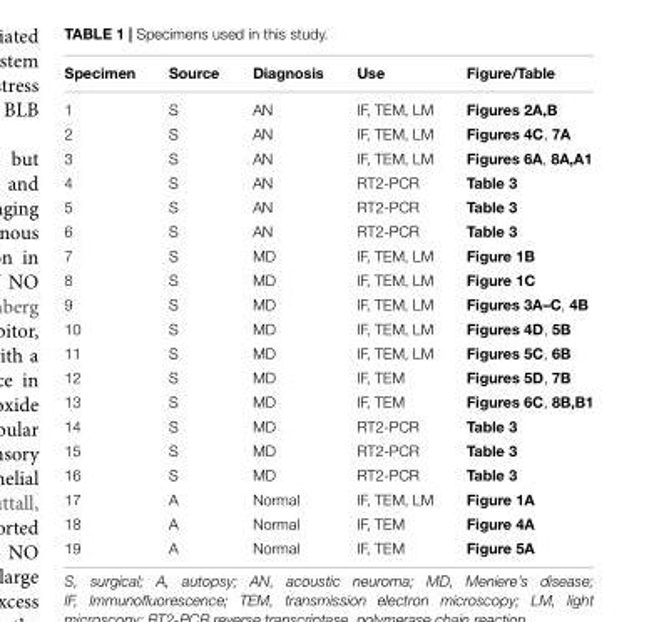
<table><thead><tr><td>Specimen</td><td>Source</td><td>Diagnosis</td><td>Use</td><td>Figure/Table</td></tr></thead><tbody><tr><td>1</td><td>S</td><td>AN</td><td>IF, TEM, LM</td><td>Figures 2A,B</td></tr><tr><td>2</td><td>S</td><td>AN</td><td>IF, TEM, LM</td><td>Figures 4C, 7A</td></tr><tr><td>3</td><td>S</td><td>AN</td><td>IF, TEM, LM</td><td>Figures 6A, 8A,A1</td></tr><tr><td>4</td><td>S</td><td>AN</td><td>RT2-PCR</td><td>Table 3</td></tr><tr><td>5</td><td>S</td><td>AN</td><td>RT2-PCR</td><td>Table 3</td></tr><tr><td>6</td><td>S</td><td>AN</td><td>RT2-PCR</td><td>Table 3</td></tr><tr><td>7</td><td>S</td><td>MD</td><td>IF, TEM, LM</td><td>Figure 1B</td></tr><tr><td>8</td><td>S</td><td>MD</td><td>IF, TEM, LM</td><td>Figure 1C</td></tr><tr><td>9</td><td>S</td><td>MD</td><td>IF, TEM, LM</td><td>Figures 3A–C, 4B</td></tr><tr><td>10</td><td>S</td><td>MD</td><td>IF, TEM, LM</td><td>Figures 4D, 5B</td></tr><tr><td>11</td><td>S</td><td>MD</td><td>IF, TEM, LM</td><td>Figures 5C, 6B</td></tr><tr><td>12</td><td>S</td><td>MD</td><td>IF, TEM</td><td>Figures 5D, 7B</td></tr><tr><td>13</td><td>S</td><td>MD</td><td>IF, TEM</td><td>Figures 6C, 8B,B1</td></tr><tr><td>14</td><td>S</td><td>MD</td><td>RT2-PCR</td><td>Table 3</td></tr><tr><td>15</td><td>S</td><td>MD</td><td>RT2-PCR</td><td>Table 3</td></tr><tr><td>16</td><td>S</td><td>MD</td><td>RT2-PCR</td><td>Table 3</td></tr><tr><td>17</td><td>A</td><td>Normal</td><td>IF, TEM, LM</td><td>Figure 1A</td></tr><tr><td>18</td><td>A</td><td>Normal</td><td>IF, TEM</td><td>Figure 4A</td></tr><tr><td>19</td><td>A</td><td>Normal</td><td>IF, TEM</td><td>Figure 5A</td></tr></tbody></table>